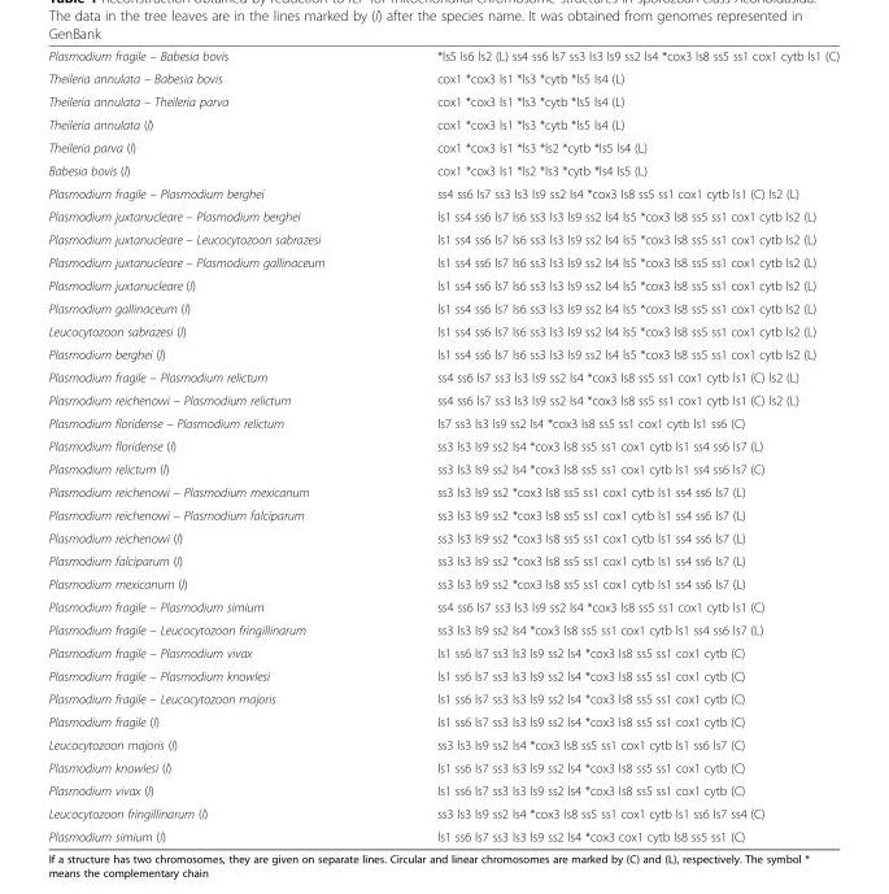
<table><tbody><tr><td>Plasmodium fragile – Babesia bovis</td><td>*ls5 ls6 ls2 (L) ss4 ss6 ls7 ss3 ls3 ls9 ss2 ls4 *cox3 ls8 ss5 ss1 cox1 cytb ls1 (C)</td></tr><tr><td>Theileria annulata – Babesia bovis</td><td>cox1 *cox3 ls1 *ls3 *cytb *ls5 ls4 (L)</td></tr><tr><td>Theileria annulata – Theileria parva</td><td>cox1 *cox3 ls1 *ls3 *cytb *ls5 ls4 (L)</td></tr><tr><td>Theileria annulata (l)</td><td>cox1 *cox3 ls1 *ls3 *cytb *ls5 ls4 (L)</td></tr><tr><td>Theileria parva (l)</td><td>cox1 *cox3 ls1 *ls3 *ls2 *cytb *ls5 ls4 (L)</td></tr><tr><td>Babesia bovis (l)</td><td>cox1 *cox3 ls1 *ls2 *ls3 *cytb *ls4 ls5 (L)</td></tr><tr><td>Plasmodium fragile – Plasmodium berghei</td><td>ss4 ss6 ls7 ss3 ls3 ls9 ss2 ls4 *cox3 ls8 ss5 ss1 cox1 cytb ls1 (C) ls2 (L)</td></tr><tr><td>Plasmodium juxtanucleare – Plasmodium berghei</td><td>ls1 ss4 ss6 ls7 ls6 ss3 ls3 ls9 ss2 ls4 ls5 *cox3 ls8 ss5 ss1 cox1 cytb ls2 (L)</td></tr><tr><td>Plasmodium juxtanucleare – Leucocytozoon sabrazesi</td><td>ls1 ss4 ss6 ls7 ls6 ss3 ls3 ls9 ss2 ls4 ls5 *cox3 ls8 ss5 ss1 cox1 cytb ls2 (L)</td></tr><tr><td>Plasmodium juxtanucleare – Plasmodium gallinaceum</td><td>ls1 ss4 ss6 ls7 ls6 ss3 ls3 ls9 ss2 ls4 ls5 *cox3 ls8 ss5 ss1 cox1 cytb ls2 (L)</td></tr><tr><td>Plasmodium juxtanucleare (l)</td><td>ls1 ss4 ss6 ls7 ls6 ss3 ls3 ls9 ss2 ls4 ls5 *cox3 ls8 ss5 ss1 cox1 cytb ls2 (L)</td></tr><tr><td>Plasmodium gallinaceum (l)</td><td>ls1 ss4 ss6 ls7 ls6 ss3 ls3 ls9 ss2 ls4 ls5 *cox3 ls8 ss5 ss1 cox1 cytb ls2 (L)</td></tr><tr><td>Leucocytozoon sabrazesi (l)</td><td>ls1 ss4 ss6 ls7 ls6 ss3 ls3 ls9 ss2 ls4 ls5 *cox3 ls8 ss5 ss1 cox1 cytb ls2 (L)</td></tr><tr><td>Plasmodium berghei (l)</td><td>ls1 ss4 ss6 ls7 ls6 ss3 ls3 ls9 ss2 ls4 ls5 *cox3 ls8 ss5 ss1 cox1 cytb ls2 (L)</td></tr><tr><td>Plasmodium fragile – Plasmodium relictum</td><td>ss4 ss6 ls7 ss3 ls3 ls9 ss2 ls4 *cox3 ls8 ss5 ss1 cox1 cytb ls1 (C) ls2 (L)</td></tr><tr><td>Plasmodium reichenowi – Plasmodium relictum</td><td>ss4 ss6 ls7 ss3 ls3 ls9 ss2 ls4 *cox3 ls8 ss5 ss1 cox1 cytb ls1 (C) ls2 (L)</td></tr><tr><td>Plasmodium floridense – Plasmodium relictum</td><td>ls7 ss3 ls3 ls9 ss2 ls4 *cox3 ls8 ss5 ss1 cox1 cytb ls1 ss6 (C)</td></tr><tr><td>Plasmodium floridense (l)</td><td>ss3 ls3 ls9 ss2 ls4 *cox3 ls8 ss5 ss1 cox1 cytb ls1 ss4 ss6 ls7 (L)</td></tr><tr><td>Plasmodium relictum (l)</td><td>ss3 ls3 ls9 ss2 ls4 *cox3 ls8 ss5 ss1 cox1 cytb ls1 ss4 ss6 ls7 (C)</td></tr><tr><td>Plasmodium reichenowi – Plasmodium mexicanum</td><td>ss3 ls3 ls9 ss2 *cox3 ls8 ss5 ss1 cox1 cytb ls1 ss4 ss6 ls7 (L)</td></tr><tr><td>Plasmodium reichenowi – Plasmodium falciparum</td><td>ss3 ls3 ls9 ss2 *cox3 ls8 ss5 ss1 cox1 cytb ls1 ss4 ss6 ls7 (L)</td></tr><tr><td>Plasmodium reichenowi (l)</td><td>ss3 ls3 ls9 ss2 *cox3 ls8 ss5 ss1 cox1 cytb ls1 ss4 ss6 ls7 (L)</td></tr><tr><td>Plasmodium falciparum (l)</td><td>ss3 ls3 ls9 ss2 *cox3 ls8 ss5 ss1 cox1 cytb ls1 ss4 ss6 ls7 (L)</td></tr><tr><td>Plasmodium mexicanum (l)</td><td>ss3 ls3 ls9 ss2 *cox3 ls8 ss5 ss1 cox1 cytb ls1 ss4 ss6 ls7 (L)</td></tr><tr><td>Plasmodium fragile – Plasmodium simium</td><td>ss4 ss6 ls7 ss3 ls3 ls9 ss2 ls4 *cox3 ls8 ss5 ss1 cox1 cytb ls1 (C)</td></tr><tr><td>Plasmodium fragile – Leucocytozoon fringillinarum</td><td>ss3 ls3 ls9 ss2 ls4 *cox3 ls8 ss5 ss1 cox1 cytb ls1 ss4 ss6 ls7 (L)</td></tr><tr><td>Plasmodium fragile – Plasmodium vivax</td><td>ls1 ss6 ls7 ss3 ls3 ls9 ss2 ls4 *cox3 ls8 ss5 ss1 cox1 cytb (C)</td></tr><tr><td>Plasmodium fragile – Plasmodium knowlesi</td><td>ls1 ss6 ls7 ss3 ls3 ls9 ss2 ls4 *cox3 ls8 ss5 ss1 cox1 cytb (C)</td></tr><tr><td>Plasmodium fragile – Leucocytozoon majoris</td><td>ls1 ss6 ls7 ss3 ls3 ls9 ss2 ls4 *cox3 ls8 ss5 ss1 cox1 cytb (C)</td></tr><tr><td>Plasmodium fragile (l)</td><td>ls1 ss6 ls7 ss3 ls3 ls9 ss2 ls4 *cox3 ls8 ss5 ss1 cox1 cytb (C)</td></tr><tr><td>Leucocytozoon majoris (l)</td><td>ss3 ls3 ls9 ss2 ls4 *cox3 ls8 ss5 ss1 cox1 cytb ls1 ss6 ls7 (C)</td></tr><tr><td>Plasmodium knowlesi (l)</td><td>ls1 ss6 ls7 ss3 ls3 ls9 ss2 ls4 *cox3 ls8 ss5 ss1 cox1 cytb (C)</td></tr><tr><td>Plasmodium vivax (l)</td><td>ls1 ss6 ls7 ss3 ls3 ls9 ss2 ls4 *cox3 ls8 ss5 ss1 cox1 cytb (C)</td></tr><tr><td>Leucocytozoon fringillinarum (l)</td><td>ss3 ls3 ls9 ss2 ls4 *cox3 ls8 ss5 ss1 cox1 cytb ls1 ss6 ls7 ss4 (C)</td></tr><tr><td>Plasmodium simium (l)</td><td>ls1 ss6 ls7 ss3 ls3 ls9 ss2 ls4 *cox3 cox1 cytb ls8 ss5 ss1 (C)</td></tr></tbody></table>